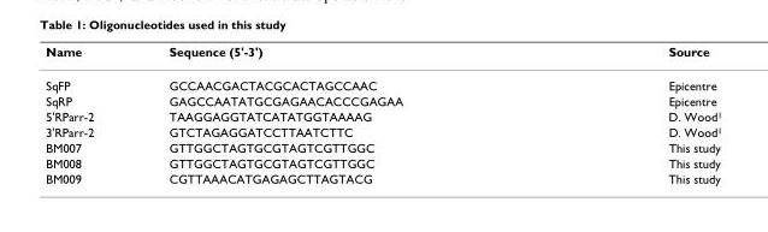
<table><thead><tr><td>Name</td><td>Sequence (5&#x27;-3&#x27;)</td><td>Source</td></tr></thead><tbody><tr><td>SqFP</td><td>GCCAACGACTACGCACTAGCCAAC</td><td>Epicentre</td></tr><tr><td>SqRP</td><td>GAGCCAATATGCGAGAACACCCGAGAA</td><td>Epicentre</td></tr><tr><td>5&#x27;RParr-2</td><td>TAAGGAGGTATCATATGGTAAAAG</td><td>D. Wood1</td></tr><tr><td>3&#x27;RParr-2</td><td>GTCTAGAGGATCCTTAATCTTC</td><td>D. Wood1</td></tr><tr><td>BM007</td><td>GTTGGCTAGTGCGTAGTCGTTGGC</td><td>This study</td></tr><tr><td>BM008</td><td>GTTGGCTAGTGCGTAGTCGTTGGC</td><td>This study</td></tr><tr><td>BM009</td><td>CGTTAAACATGAGAGCTTAGTACG</td><td>This study</td></tr></tbody></table>